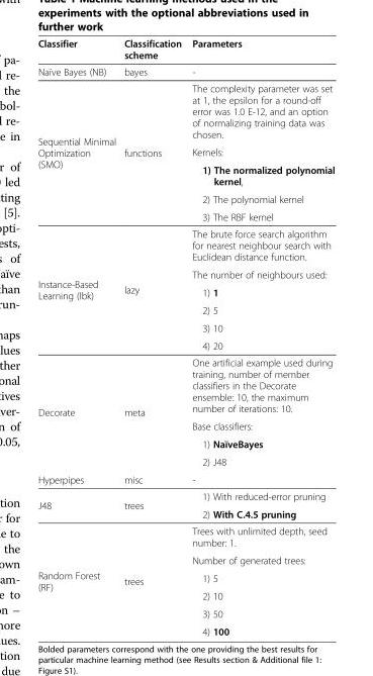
<table><thead><tr><td>Classifier</td><td>Classification scheme</td><td>Parameters</td></tr></thead><tbody><tr><td>Naïve Bayes (NB)</td><td>bayes</td><td>-</td></tr><tr><td rowspan="5">Sequential Minimal Optimization (SMO)</td><td rowspan="5">functions</td><td>The complexity parameter was set at 1, the epsilon for a round-off error was 1.0 E-12, and an option of normalizing training data was chosen.</td></tr><tr><td>Kernels:</td></tr><tr><td>1) The normalized polynomial kernel,</td></tr><tr><td>2) The polynomial kernel</td></tr><tr><td>3) The RBF kernel</td></tr><tr><td rowspan="6">Instance-Based Learning (Ibk)</td><td rowspan="6">lazy</td><td>The brute force search algorithm for nearest neighbour search with Euclidean distance function.</td></tr><tr><td>The number of neighbours used:</td></tr><tr><td>1) 1</td></tr><tr><td>2) 5</td></tr><tr><td>3) 10</td></tr><tr><td>4) 20</td></tr><tr><td rowspan="4">Decorate</td><td rowspan="4">meta</td><td>One artificial example used during training, number of member classifiers in the Decorate ensemble: 10, the maximum number of iterations: 10.</td></tr><tr><td>Base classifiers:</td></tr><tr><td>1) NaïveBayes</td></tr><tr><td>2) J48</td></tr><tr><td>Hyperpipes</td><td>misc</td><td>-</td></tr><tr><td rowspan="2">J48</td><td rowspan="2">trees</td><td>1) With reduced-error pruning</td></tr><tr><td>2) With C.4.5 pruning</td></tr><tr><td rowspan="6">Random Forest (RF)</td><td rowspan="6">trees</td><td>Trees with unlimited depth, seed number: 1.</td></tr><tr><td>Number of generated trees:</td></tr><tr><td>1) 5</td></tr><tr><td>2) 10</td></tr><tr><td>3) 50</td></tr><tr><td>4) 100</td></tr></tbody></table>